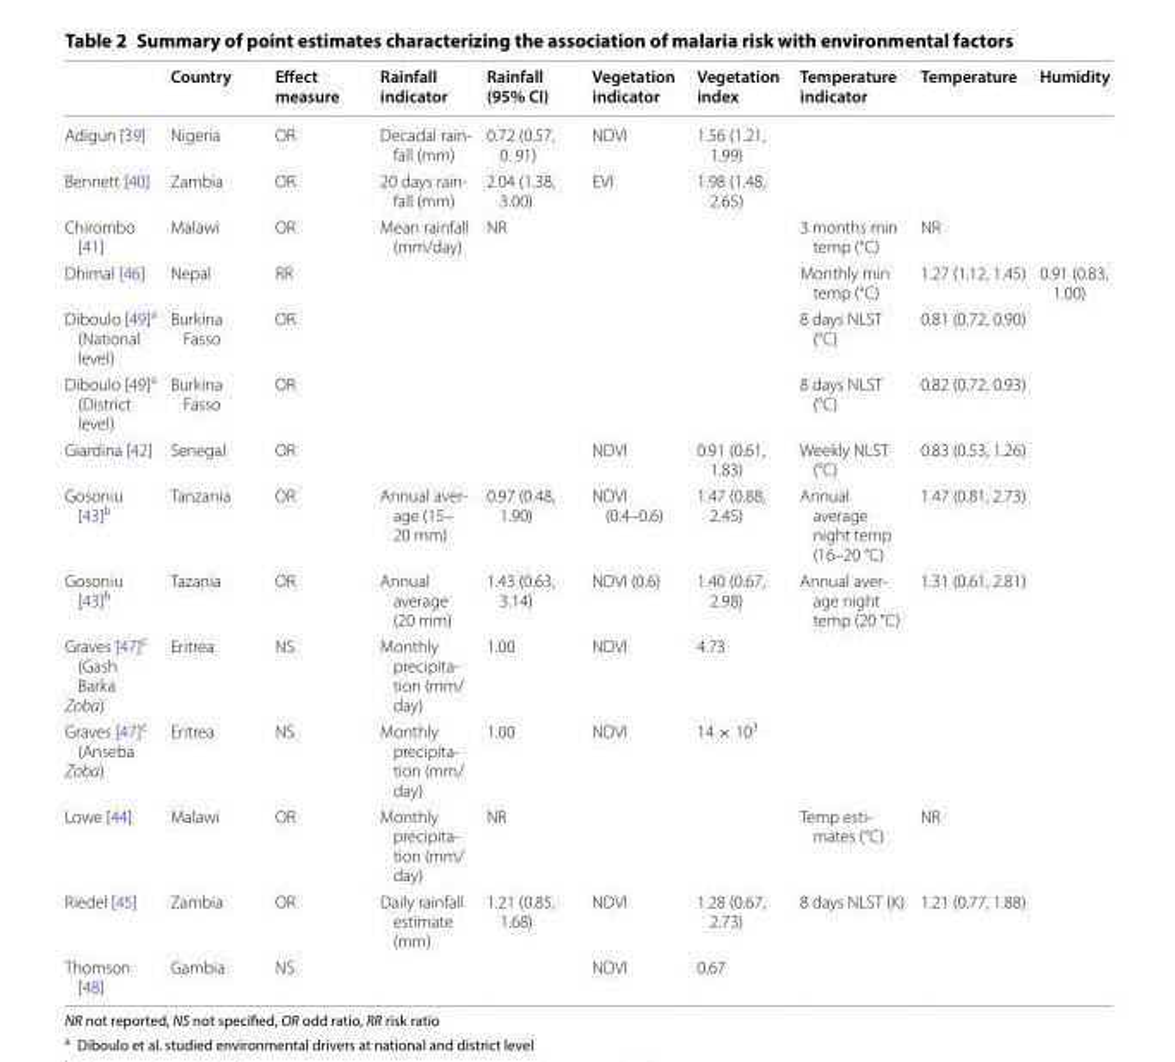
<table><thead><tr><td></td><td>Country</td><td>Effect measure</td><td>Rainfall indicator</td><td>Rainfall (95% CI)</td><td>Vegetation indicator</td><td>Vegetation index</td><td>Temperature indicator</td><td>Temperature</td><td>Humidity</td></tr></thead><tbody><tr><td>Adigun [39]</td><td>Nigeria</td><td>OR</td><td>Decadal rain- fall (mm)</td><td>0.72 (0.57, 0. 91)</td><td>NDVI</td><td>1.56 (1.21, 1.99)</td><td></td><td></td><td></td></tr><tr><td>Bennett [40]</td><td>Zambia</td><td>OR</td><td>20 days rain- fall (mm)</td><td>2.04 (1.38, 3.00)</td><td>EVI</td><td>1.98 (1.48, 2.65)</td><td></td><td></td><td></td></tr><tr><td>Chirombo [41]</td><td>Malawi</td><td>OR</td><td>Mean rainfall (mm/day)</td><td>NR</td><td></td><td></td><td>3 months min temp (°C)</td><td>NR</td><td></td></tr><tr><td>Dhimal [46]</td><td>Nepal</td><td>RR</td><td></td><td></td><td></td><td></td><td>Monthly min temp (°C)</td><td>1.27 (1.12, 1.45)</td><td>0.91 (0.83, 1.00)</td></tr><tr><td>Diboulo [49]<sup>a</sup> (National level)</td><td>Burkina Fasso</td><td>OR</td><td></td><td></td><td></td><td></td><td>8 days NLST (°C)</td><td>0.81 (0.72, 0.90)</td><td></td></tr><tr><td>Diboulo [49]<sup>a</sup> (District level)</td><td>Burkina Fasso</td><td>OR</td><td></td><td></td><td></td><td></td><td>8 days NLST (°C)</td><td>0.82 (0.72, 0.93)</td><td></td></tr><tr><td>Giardina [42]</td><td>Senegal</td><td>OR</td><td></td><td></td><td>NDVI</td><td>0.91 (0.61, 1.83)</td><td>Weekly NLST (°C)</td><td>0.83 (0.53, 1.26)</td><td></td></tr><tr><td>Gosoniu [43]<sup>b</sup></td><td>Tanzania</td><td>OR</td><td>Annual aver- age (15– 20 mm)</td><td>0.97 (0.48, 1.90)</td><td>NDVI (0.4–0.6)</td><td>1.47 (0.88, 2.45)</td><td>Annual average night temp (16–20 °C)</td><td>1.47 (0.81, 2.73)</td><td></td></tr><tr><td>Gosoniu [43]<sup>b</sup></td><td>Tazania</td><td>OR</td><td>Annual average (20 mm)</td><td>1.43 (0.63, 3.14)</td><td>NDVI (0.6)</td><td>1.40 (0.67, 2.98)</td><td>Annual aver- age night temp (20 °C)</td><td>1.31 (0.61, 2.81)</td><td></td></tr><tr><td>Graves [47]<sup>c</sup> (Gash Barka Zoba)</td><td>Eritrea</td><td>NS</td><td>Monthly precipita- tion (mm/ day)</td><td>1.00</td><td>NDVI</td><td>4.73</td><td></td><td></td><td></td></tr><tr><td>Graves [47]<sup>c</sup> (Anseba Zoba)</td><td>Eritrea</td><td>NS</td><td>Monthly precipita- tion (mm/ day)</td><td>1.00</td><td>NDVI</td><td>14 × 10<sup>3</sup></td><td></td><td></td><td></td></tr><tr><td>Lowe [44]</td><td>Malawi</td><td>OR</td><td>Monthly precipita- tion (mm/ day)</td><td>NR</td><td></td><td></td><td>Temp esti- mates (°C)</td><td>NR</td><td></td></tr><tr><td>Riedel [45]</td><td>Zambia</td><td>OR</td><td>Daily rainfall estimate (mm)</td><td>1.21 (0.85, 1.68)</td><td>NDVI</td><td>1.28 (0.67, 2.73)</td><td>8 days NLST (K)</td><td>1.21 (0.77, 1.88)</td><td></td></tr><tr><td>Thomson [48]</td><td>Gambia</td><td>NS</td><td></td><td></td><td>NDVI</td><td>0.67</td><td></td><td></td><td></td></tr></tbody></table>